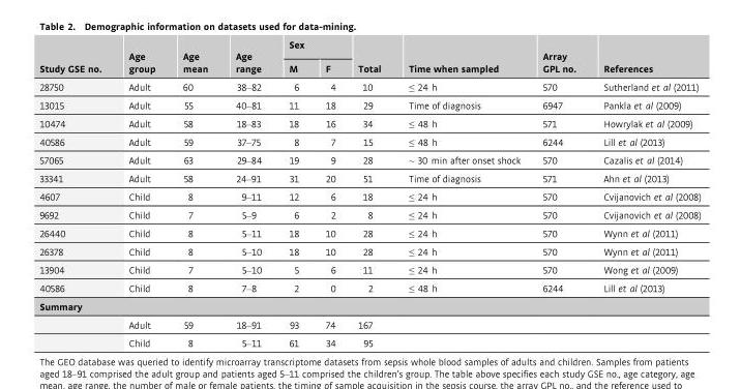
<table><thead><tr><td rowspan="2">Study GSE no.</td><td rowspan="2">Age group</td><td rowspan="2">Age mean</td><td rowspan="2">Age range</td><td colspan="2">Sex</td><td rowspan="2">Total</td><td rowspan="2">Time when sampled</td><td rowspan="2">Array GPL no.</td><td rowspan="2">References</td></tr><tr><td>M</td><td>F</td></tr></thead><tbody><tr><td>28750</td><td>Adult</td><td>60</td><td>38–82</td><td>6</td><td>4</td><td>10</td><td>≤ 24 h</td><td>570</td><td>Sutherland et al (2011)</td></tr><tr><td>13015</td><td>Adult</td><td>55</td><td>40–81</td><td>11</td><td>18</td><td>29</td><td>Time of diagnosis</td><td>6947</td><td>Pankla et al (2009)</td></tr><tr><td>10474</td><td>Adult</td><td>58</td><td>18–83</td><td>18</td><td>16</td><td>34</td><td>≤ 48 h</td><td>571</td><td>Howrylak et al (2009)</td></tr><tr><td>40586</td><td>Adult</td><td>59</td><td>37–75</td><td>8</td><td>7</td><td>15</td><td>≤ 48 h</td><td>6244</td><td>Lill et al (2013)</td></tr><tr><td>57065</td><td>Adult</td><td>63</td><td>29–84</td><td>19</td><td>9</td><td>28</td><td>~ 30 min after onset shock</td><td>570</td><td>Cazalis et al (2014)</td></tr><tr><td>33341</td><td>Adult</td><td>58</td><td>24–91</td><td>31</td><td>20</td><td>51</td><td>Time of diagnosis</td><td>571</td><td>Ahn et al (2013)</td></tr><tr><td>4607</td><td>Child</td><td>8</td><td>9–11</td><td>12</td><td>6</td><td>18</td><td>≤ 24 h</td><td>570</td><td>Cvijanovich et al (2008)</td></tr><tr><td>9692</td><td>Child</td><td>7</td><td>5–9</td><td>6</td><td>2</td><td>8</td><td>≤ 24 h</td><td>570</td><td>Cvijanovich et al (2008)</td></tr><tr><td>26440</td><td>Child</td><td>8</td><td>5–11</td><td>18</td><td>10</td><td>28</td><td>≤ 24 h</td><td>570</td><td>Wynn et al (2011)</td></tr><tr><td>26378</td><td>Child</td><td>8</td><td>5–10</td><td>18</td><td>10</td><td>28</td><td>≤ 24 h</td><td>570</td><td>Wynn et al (2011)</td></tr><tr><td>13904</td><td>Child</td><td>7</td><td>5–10</td><td>5</td><td>6</td><td>11</td><td>≤ 24 h</td><td>570</td><td>Wong et al (2009)</td></tr><tr><td>40586</td><td>Child</td><td>8</td><td>7–8</td><td>2</td><td>0</td><td>2</td><td>≤ 48 h</td><td>6244</td><td>Lill et al (2013)</td></tr><tr><td colspan="10">Summary</td></tr><tr><td></td><td>Adult</td><td>59</td><td>18–91</td><td>93</td><td>74</td><td>167</td><td></td><td></td><td></td></tr><tr><td></td><td>Child</td><td>8</td><td>5–11</td><td>61</td><td>34</td><td>95</td><td></td><td></td><td></td></tr></tbody></table>